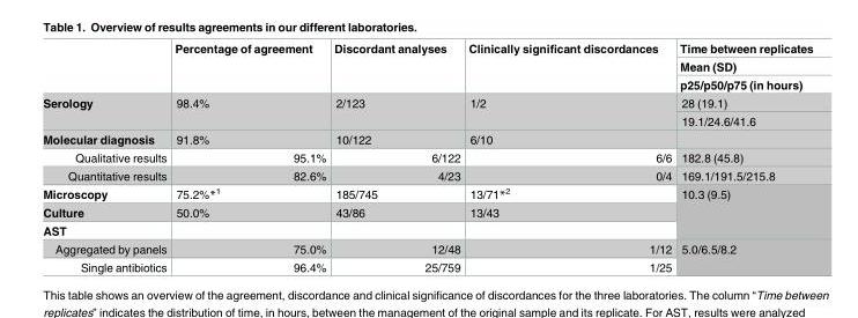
<table><thead><tr><td rowspan="3"></td><td rowspan="3">Percentage of agreement</td><td rowspan="3">Discordant analyses</td><td rowspan="3">Clinically significant discordances</td><td rowspan="3">Time between replicates Mean (SD) p25/p50/p75 (in hours)</td></tr><tr></tr><tr></tr></thead><tbody><tr><td rowspan="2">Serology</td><td rowspan="2">98.4%</td><td rowspan="2">2/123</td><td rowspan="2">1/2</td><td>28 (19.1)</td></tr><tr><td>19.1/24.6/41.6</td></tr><tr><td>Molecular diagnosis</td><td>91.8%</td><td>10/122</td><td>6/10</td><td></td></tr><tr><td>Qualitative results</td><td>95.1%</td><td>6/122</td><td>6/6</td><td>182.8 (45.8)</td></tr><tr><td>Quantitative results</td><td>82.6%</td><td>4/23</td><td>0/4</td><td>169.1/191.5/215.8</td></tr><tr><td>Microscopy</td><td>75.2%*<sup>1</sup></td><td>185/745</td><td>13/71*<sup>2</sup></td><td rowspan="3">10.3 (9.5)</td></tr><tr><td>Culture</td><td>50.0%</td><td>43/86</td><td>13/43</td></tr><tr><td colspan="4">AST</td></tr><tr><td>Aggregated by panels</td><td>75.0%</td><td>12/48</td><td>1/12</td><td rowspan="2">5.0/6.5/8.2</td></tr><tr><td>Single antibiotics</td><td>96.4%</td><td>25/759</td><td>1/25</td></tr></tbody></table>